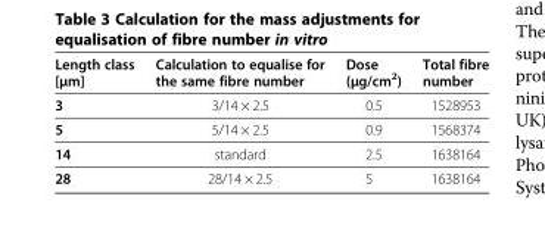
<table><thead><tr><td>Length class [μm]</td><td>Calculation to equalise for the same fibre number</td><td>Dose (μg/cm<sup>2</sup>)</td><td>Total fibre number</td></tr></thead><tbody><tr><td>3</td><td>3/14 × 2.5</td><td>0.5</td><td>1528953</td></tr><tr><td>5</td><td>5/14 × 2.5</td><td>0.9</td><td>1568374</td></tr><tr><td>14</td><td>standard</td><td>2.5</td><td>1638164</td></tr><tr><td>28</td><td>28/14 × 2.5</td><td>5</td><td>1638164</td></tr></tbody></table>